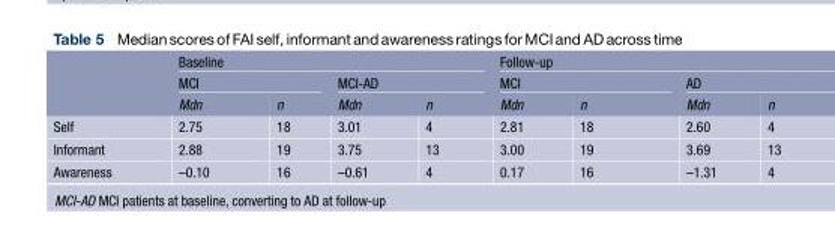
<table><thead><tr><td rowspan="3"></td><td colspan="4">Baseline</td><td colspan="4">Follow-up</td></tr><tr><td colspan="2">MCI</td><td colspan="2">MCI-AD</td><td colspan="2">MCI</td><td colspan="2">AD</td></tr><tr><td>Mdn</td><td>n</td><td>Mdn</td><td>n</td><td>Mdn</td><td>n</td><td>Mdn</td><td>n</td></tr></thead><tbody><tr><td>Self</td><td>2.75</td><td>18</td><td>3.01</td><td>4</td><td>2.81</td><td>18</td><td>2.60</td><td>4</td></tr><tr><td>Informant</td><td>2.88</td><td>19</td><td>3.75</td><td>13</td><td>3.00</td><td>19</td><td>3.69</td><td>13</td></tr><tr><td>Awareness</td><td>–0.10</td><td>16</td><td>–0.61</td><td>4</td><td>0.17</td><td>16</td><td>–1.31</td><td>4</td></tr></tbody></table>